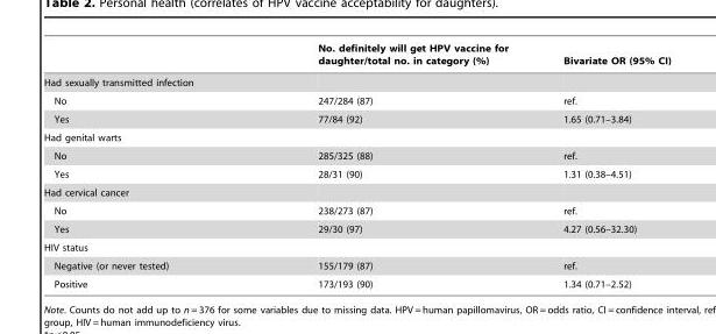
<table><thead><tr><td></td><td>No. definitely will get HPV vaccine for daughter/total no. in category (%)</td><td>Bivariate OR (95% CI)</td></tr></thead><tbody><tr><td colspan="3">Had sexually transmitted infection</td></tr><tr><td>No</td><td>247/284 (87)</td><td>ref.</td></tr><tr><td>Yes</td><td>77/84 (92)</td><td>1.65 (0.71–3.84)</td></tr><tr><td colspan="3">Had genital warts</td></tr><tr><td>No</td><td>285/325 (88)</td><td>ref.</td></tr><tr><td>Yes</td><td>28/31 (90)</td><td>1.31 (0.38–4.51)</td></tr><tr><td colspan="3">Had cervical cancer</td></tr><tr><td>No</td><td>238/273 (87)</td><td>ref.</td></tr><tr><td>Yes</td><td>29/30 (97)</td><td>4.27 (0.56–32.30)</td></tr><tr><td colspan="3">HIV status</td></tr><tr><td>Negative (or never tested)</td><td>155/179 (87)</td><td>ref.</td></tr><tr><td>Positive</td><td>173/193 (90)</td><td>1.34 (0.71–2.52)</td></tr></tbody></table>